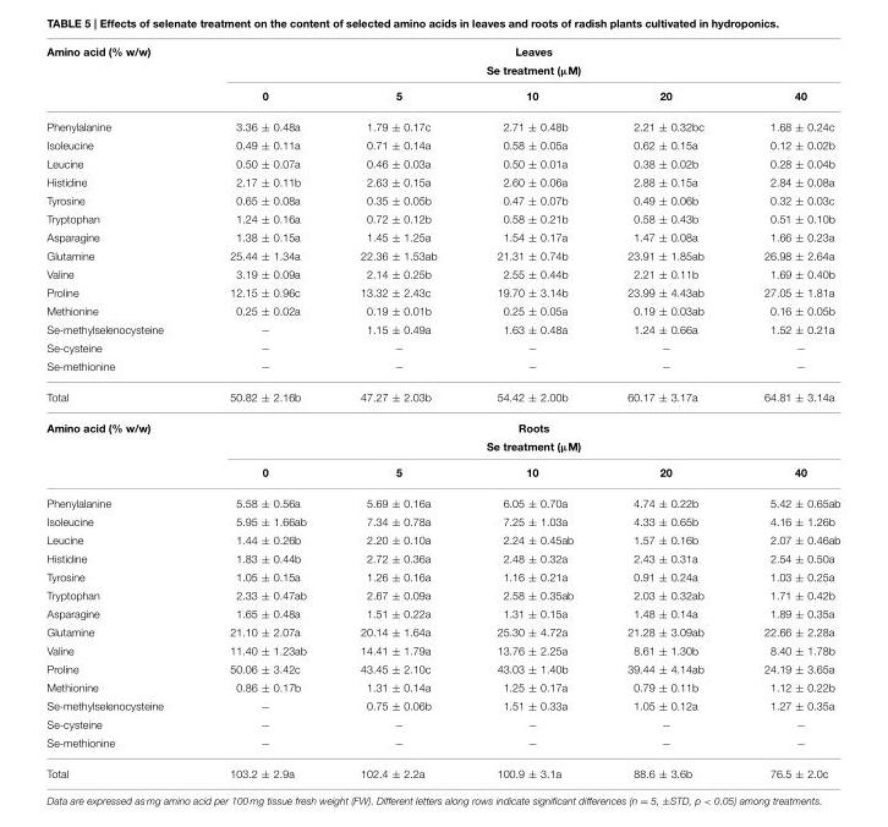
<table><thead><tr><td rowspan="3">Amino acid (% w/w)</td><td rowspan="2" colspan="5">Leaves Se treatment (µM)</td></tr><tr></tr><tr><td>0</td><td>5</td><td>10</td><td>20</td><td>40</td></tr></thead><tbody><tr><td>Phenylalanine</td><td>3.36 ± 0.48a</td><td>1.79 ± 0.17c</td><td>2.71 ± 0.48b</td><td>2.21 ± 0.32bc</td><td>1.68 ± 0.24c</td></tr><tr><td>Isoleucine</td><td>0.49 ± 0.11a</td><td>0.71 ± 0.14a</td><td>0.58 ± 0.05a</td><td>0.62 ± 0.15a</td><td>0.12 ± 0.02b</td></tr><tr><td>Leucine</td><td>0.50 ± 0.07a</td><td>0.46 ± 0.03a</td><td>0.50 ± 0.01a</td><td>0.38 ± 0.02b</td><td>0.28 ± 0.04b</td></tr><tr><td>Histidine</td><td>2.17 ± 0.11b</td><td>2.63 ± 0.15a</td><td>2.60 ± 0.06a</td><td>2.88 ± 0.15a</td><td>2.84 ± 0.08a</td></tr><tr><td>Tyrosine</td><td>0.65 ± 0.08a</td><td>0.35 ± 0.05b</td><td>0.47 ± 0.07b</td><td>0.49 ± 0.06b</td><td>0.32 ± 0.03c</td></tr><tr><td>Tryptophan</td><td>1.24 ± 0.16a</td><td>0.72 ± 0.12b</td><td>0.58 ± 0.21b</td><td>0.58 ± 0.43b</td><td>0.51 ± 0.10b</td></tr><tr><td>Asparagine</td><td>1.38 ± 0.15a</td><td>1.45 ± 1.25a</td><td>1.54 ± 0.17a</td><td>1.47 ± 0.08a</td><td>1.66 ± 0.23a</td></tr><tr><td>Glutamine</td><td>25.44 ± 1.34a</td><td>22.36 ± 1.53ab</td><td>21.31 ± 0.74b</td><td>23.91 ± 1.85ab</td><td>26.98 ± 2.64a</td></tr><tr><td>Valine</td><td>3.19 ± 0.09a</td><td>2.14 ± 0.25b</td><td>2.55 ± 0.44b</td><td>2.21 ± 0.11b</td><td>1.69 ± 0.40b</td></tr><tr><td>Proline</td><td>12.15 ± 0.96c</td><td>13.32 ± 2.43c</td><td>19.70 ± 3.14b</td><td>23.99 ± 4.43ab</td><td>27.05 ± 1.81a</td></tr><tr><td>Methionine</td><td>0.25 ± 0.02a</td><td>0.19 ± 0.01b</td><td>0.25 ± 0.05a</td><td>0.19 ± 0.03ab</td><td>0.16 ± 0.05b</td></tr><tr><td>Se-methylselenocysteine</td><td>−</td><td>1.15 ± 0.49a</td><td>1.63 ± 0.48a</td><td>1.24 ± 0.66a</td><td>1.52 ± 0.21a</td></tr><tr><td>Se-cysteine</td><td>−</td><td>−</td><td>−</td><td>−</td><td>−</td></tr><tr><td>Se-methionine</td><td>−</td><td>−</td><td>−</td><td>−</td><td>−</td></tr><tr><td>Total</td><td>50.82 ± 2.16b</td><td>47.27 ± 2.03b</td><td>54.42 ± 2.00b</td><td>60.17 ± 3.17a</td><td>64.81 ± 3.14a</td></tr><tr><td rowspan="3">Amino acid (% w/w)</td><td colspan="5">Roots</td></tr><tr><td colspan="5">Se treatment (µM)</td></tr><tr><td>0</td><td>5</td><td>10</td><td>20</td><td>40</td></tr><tr><td>Phenylalanine</td><td>5.58 ± 0.56a</td><td>5.69 ± 0.16a</td><td>6.05 ± 0.70a</td><td>4.74 ± 0.22b</td><td>5.42 ± 0.65ab</td></tr><tr><td>Isoleucine</td><td>5.95 ± 1.66ab</td><td>7.34 ± 0.78a</td><td>7.25 ± 1.03a</td><td>4.33 ± 0.65b</td><td>4.16 ± 1.26b</td></tr><tr><td>Leucine</td><td>1.44 ± 0.26b</td><td>2.20 ± 0.10a</td><td>2.24 ± 0.45ab</td><td>1.57 ± 0.16b</td><td>2.07 ± 0.46ab</td></tr><tr><td>Histidine</td><td>1.83 ± 0.44b</td><td>2.72 ± 0.36a</td><td>2.48 ± 0.32a</td><td>2.43 ± 0.31a</td><td>2.54 ± 0.50a</td></tr><tr><td>Tyrosine</td><td>1.05 ± 0.15a</td><td>1.26 ± 0.16a</td><td>1.16 ± 0.21a</td><td>0.91 ± 0.24a</td><td>1.03 ± 0.25a</td></tr><tr><td>Tryptophan</td><td>2.33 ± 0.47ab</td><td>2.67 ± 0.09a</td><td>2.58 ± 0.35ab</td><td>2.03 ± 0.32ab</td><td>1.71 ± 0.42b</td></tr><tr><td>Asparagine</td><td>1.65 ± 0.48a</td><td>1.51 ± 0.22a</td><td>1.31 ± 0.15a</td><td>1.48 ± 0.14a</td><td>1.89 ± 0.35a</td></tr><tr><td>Glutamine</td><td>21.10 ± 2.07a</td><td>20.14 ± 1.64a</td><td>25.30 ± 4.72a</td><td>21.28 ± 3.09ab</td><td>22.66 ± 2.28a</td></tr><tr><td>Valine</td><td>11.40 ± 1.23ab</td><td>14.41 ± 1.79a</td><td>13.76 ± 2.25a</td><td>8.61 ± 1.30b</td><td>8.40 ± 1.78b</td></tr><tr><td>Proline</td><td>50.06 ± 3.42c</td><td>43.45 ± 2.10c</td><td>43.03 ± 1.40b</td><td>39.44 ± 4.14ab</td><td>24.19 ± 3.65a</td></tr><tr><td>Methionine</td><td>0.86 ± 0.17b</td><td>1.31 ± 0.14a</td><td>1.25 ± 0.17a</td><td>0.79 ± 0.11b</td><td>1.12 ± 0.22b</td></tr><tr><td>Se-methylselenocysteine</td><td>−</td><td>0.75 ± 0.06b</td><td>1.51 ± 0.33a</td><td>1.05 ± 0.12a</td><td>1.27 ± 0.35a</td></tr><tr><td>Se-cysteine</td><td>−</td><td>−</td><td>−</td><td>−</td><td>−</td></tr><tr><td>Se-methionine</td><td>−</td><td>−</td><td>−</td><td>−</td><td>−</td></tr><tr><td>Total</td><td>103.2 ± 2.9a</td><td>102.4 ± 2.2a</td><td>100.9 ± 3.1a</td><td>88.6 ± 3.6b</td><td>76.5 ± 2.0c</td></tr></tbody></table>